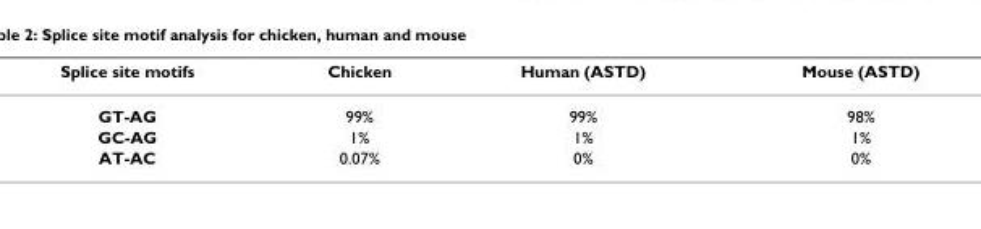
<table><thead><tr><td>Splice site motifs</td><td>Chicken</td><td>Human (ASTD)</td><td>Mouse (ASTD)</td></tr></thead><tbody><tr><td>GT-AG</td><td>99%</td><td>99%</td><td>98%</td></tr><tr><td>GC-AG</td><td>1%</td><td>1%</td><td>1%</td></tr><tr><td>AT-AC</td><td>0.07%</td><td>0%</td><td>0%</td></tr></tbody></table>